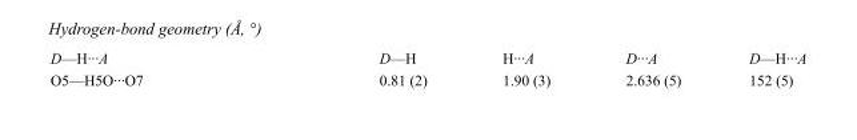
<table><tbody><tr><td>D—H···A</td><td>D—H</td><td>H···A</td><td>D···A</td><td>D—H···A</td></tr><tr><td>O5—H5O···O7</td><td>0.81 (2)</td><td>1.90 (3)</td><td>2.636 (5)</td><td>152 (5)</td></tr></tbody></table>